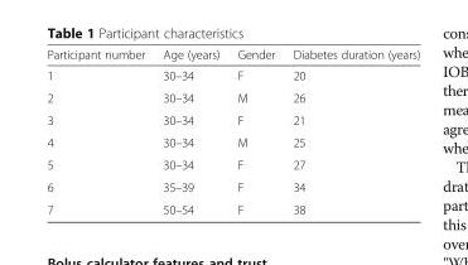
<table><thead><tr><td>Participant number</td><td>Age (years)</td><td>Gender</td><td>Diabetes duration (years)</td></tr></thead><tbody><tr><td>1</td><td>30–34</td><td>F</td><td>20</td></tr><tr><td>2</td><td>30–34</td><td>M</td><td>26</td></tr><tr><td>3</td><td>30–34</td><td>F</td><td>21</td></tr><tr><td>4</td><td>30–34</td><td>M</td><td>25</td></tr><tr><td>5</td><td>30–34</td><td>F</td><td>27</td></tr><tr><td>6</td><td>35–39</td><td>F</td><td>34</td></tr><tr><td>7</td><td>50–54</td><td>F</td><td>38</td></tr></tbody></table>